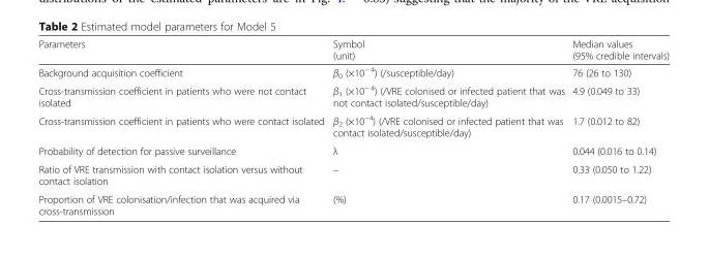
<table><thead><tr><td>Parameters</td><td>Symbol (unit)</td><td>Median values (95% credible intervals)</td></tr></thead><tbody><tr><td>Background acquisition coefficient</td><td>β<sub>0</sub> (×10<sup>− 4</sup>) (/susceptible/day)</td><td>76 (26 to 130)</td></tr><tr><td>Cross-transmission coefficient in patients who were not contact isolated</td><td>β<sub>1</sub> (×10<sup>− 4</sup>) (/VRE colonised or infected patient that was not contact isolated/susceptible/day)</td><td>4.9 (0.049 to 33)</td></tr><tr><td>Cross-transmission coefficient in patients who were contact isolated</td><td>β<sub>2</sub> (×10<sup>−4</sup>) (/VRE colonised or infected patient that was contact isolated/susceptible/day)</td><td>1.7 (0.012 to 82)</td></tr><tr><td>Probability of detection for passive surveillance</td><td>λ</td><td>0.044 (0.016 to 0.14)</td></tr><tr><td>Ratio of VRE transmission with contact isolation versus without contact isolation</td><td>–</td><td>0.33 (0.050 to 1.22)</td></tr><tr><td>Proportion of VRE colonisation/infection that was acquired via cross-transmission</td><td>(%)</td><td>0.17 (0.0015–0.72)</td></tr></tbody></table>